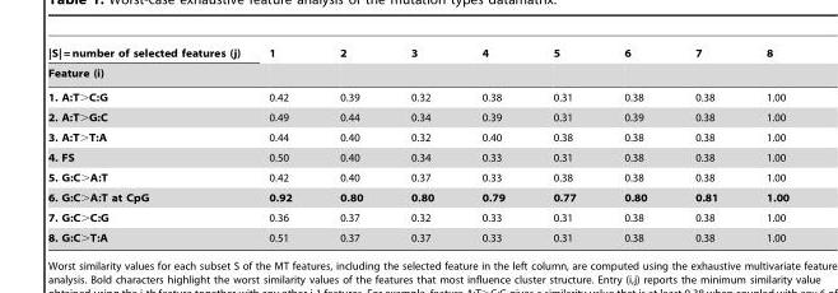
<table><thead><tr><td rowspan="2">|S| = number of selected features (j) Feature (i)</td><td rowspan="2">1</td><td rowspan="2">2</td><td rowspan="2">3</td><td rowspan="2">4</td><td rowspan="2">5</td><td rowspan="2">6</td><td rowspan="2">7</td><td rowspan="2">8</td></tr><tr></tr></thead><tbody><tr><td>1. A:T&gt;C:G</td><td>0.42</td><td>0.39</td><td>0.32</td><td>0.38</td><td>0.31</td><td>0.38</td><td>0.38</td><td>1.00</td></tr><tr><td>2. A:T&gt;G:C</td><td>0.49</td><td>0.44</td><td>0.34</td><td>0.39</td><td>0.31</td><td>0.39</td><td>0.38</td><td>1.00</td></tr><tr><td>3. A:T&gt;T:A</td><td>0.44</td><td>0.40</td><td>0.32</td><td>0.40</td><td>0.38</td><td>0.38</td><td>0.38</td><td>1.00</td></tr><tr><td>4. FS</td><td>0.50</td><td>0.40</td><td>0.34</td><td>0.33</td><td>0.31</td><td>0.38</td><td>0.38</td><td>1.00</td></tr><tr><td>5. G:C&gt;A:T</td><td>0.42</td><td>0.40</td><td>0.37</td><td>0.33</td><td>0.38</td><td>0.38</td><td>0.38</td><td>1.00</td></tr><tr><td>6. G:C&gt;A:T at CpG</td><td>0.92</td><td>0.80</td><td>0.80</td><td>0.79</td><td>0.77</td><td>0.80</td><td>0.81</td><td>1.00</td></tr><tr><td>7. G:C&gt;C:G</td><td>0.36</td><td>0.37</td><td>0.32</td><td>0.33</td><td>0.31</td><td>0.38</td><td>0.38</td><td>1.00</td></tr><tr><td>8. G:C&gt;T:A</td><td>0.51</td><td>0.37</td><td>0.37</td><td>0.33</td><td>0.31</td><td>0.38</td><td>0.38</td><td>1.00</td></tr></tbody></table>